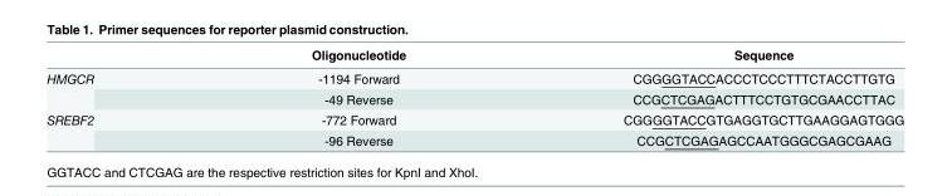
<table><thead><tr><td></td><td>Oligonucleotide</td><td>Sequence</td></tr></thead><tbody><tr><td rowspan="2">HMGCR</td><td>-1194 Forward</td><td>CGGGGTACCACCCTCCCTTTCTACCTTGTG</td></tr><tr><td>-49 Reverse</td><td>CCGCTCGAGACTTTCCTGTGCGAACCTTAC</td></tr><tr><td rowspan="2">SREBF2</td><td>-772 Forward</td><td>CGGGGTACCGTGAGGTGCTTGAAGGAGTGGG</td></tr><tr><td>-96 Reverse</td><td>CCGCTCGAGAGCCAATGGGCGAGCGAAG</td></tr></tbody></table>